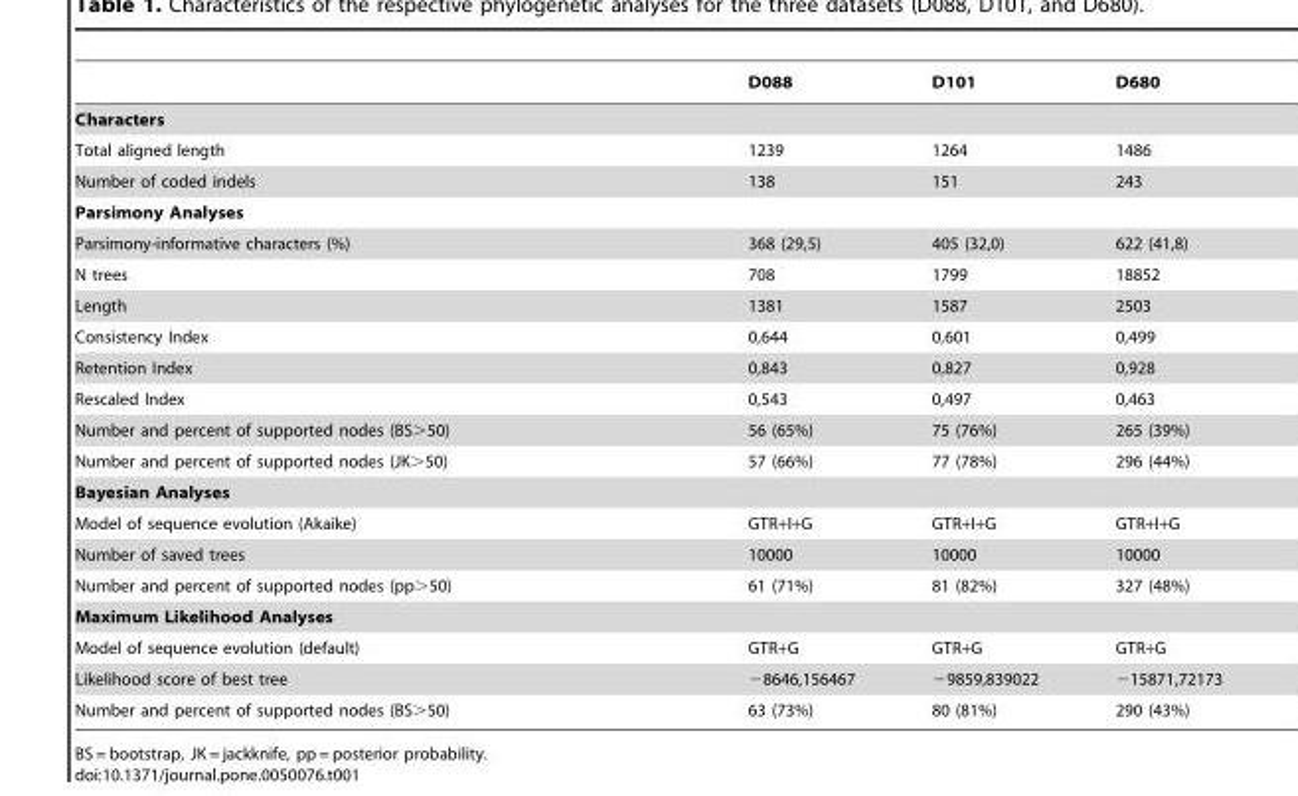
<table><thead><tr><td></td><td>D088</td><td>D101</td><td>D680</td></tr></thead><tbody><tr><td colspan="4">Characters</td></tr><tr><td>Total aligned length</td><td>1239</td><td>1264</td><td>1486</td></tr><tr><td>Number of coded indels</td><td>138</td><td>151</td><td>243</td></tr><tr><td colspan="4">Parsimony Analyses</td></tr><tr><td>Parsimony-informative characters (%)</td><td>368 (29,5)</td><td>405 (32,0)</td><td>622 (41,8)</td></tr><tr><td>N trees</td><td>708</td><td>1799</td><td>18852</td></tr><tr><td>Length</td><td>1381</td><td>1587</td><td>2503</td></tr><tr><td>Consistency Index</td><td>0,644</td><td>0,601</td><td>0,499</td></tr><tr><td>Retention Index</td><td>0,843</td><td>0,827</td><td>0,928</td></tr><tr><td>Rescaled Index</td><td>0,543</td><td>0,497</td><td>0,463</td></tr><tr><td>Number and percent of supported nodes (BS&gt;50)</td><td>56 (65%)</td><td>75 (76%)</td><td>265 (39%)</td></tr><tr><td>Number and percent of supported nodes (JK&gt;50)</td><td>57 (66%)</td><td>77 (78%)</td><td>296 (44%)</td></tr><tr><td colspan="4">Bayesian Analyses</td></tr><tr><td>Model of sequence evolution (Akaike)</td><td>GTR+I+G</td><td>GTR+I+G</td><td>GTR+I+G</td></tr><tr><td>Number of saved trees</td><td>10000</td><td>10000</td><td>10000</td></tr><tr><td>Number and percent of supported nodes (pp&gt;50)</td><td>61 (71%)</td><td>81 (82%)</td><td>327 (48%)</td></tr><tr><td colspan="4">Maximum Likelihood Analyses</td></tr><tr><td>Model of sequence evolution (default)</td><td>GTR+G</td><td>GTR+G</td><td>GTR+G</td></tr><tr><td>Likelihood score of best tree</td><td>−8646,156467</td><td>−9859,839022</td><td>−15871,72173</td></tr><tr><td>Number and percent of supported nodes (BS&gt;50)</td><td>63 (73%)</td><td>80 (81%)</td><td>290 (43%)</td></tr></tbody></table>